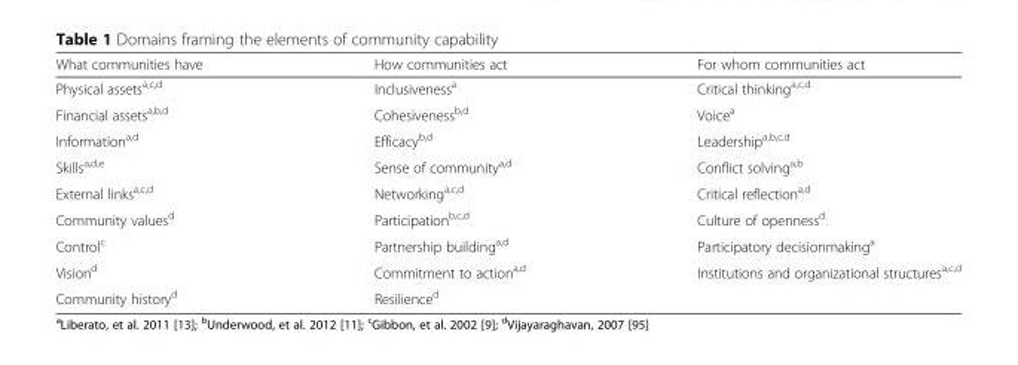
<table><thead><tr><td>What communities have</td><td>How communities act</td><td>For whom communities act</td></tr></thead><tbody><tr><td>Physical assets<sup>a,c,d</sup></td><td>Inclusiveness<sup>a</sup></td><td>Critical thinking<sup>a,c,d</sup></td></tr><tr><td>Financial assets<sup>a,b,d</sup></td><td>Cohesiveness<sup>b,d</sup></td><td>Voice<sup>a</sup></td></tr><tr><td>Information<sup>a,d</sup></td><td>Efficacy<sup>b,d</sup></td><td>Leadership<sup>a,b,c,d</sup></td></tr><tr><td>Skills<sup>a,d,e</sup></td><td>Sense of community<sup>a,d</sup></td><td>Conflict solving<sup>a,b</sup></td></tr><tr><td>External links<sup>a,c,d</sup></td><td>Networking<sup>a,c,d</sup></td><td>Critical reflection<sup>a,d</sup></td></tr><tr><td>Community values<sup>d</sup></td><td>Participation<sup>b,c,d</sup></td><td>Culture of openness<sup>d</sup></td></tr><tr><td>Control<sup>c</sup></td><td>Partnership building<sup>a,d</sup></td><td>Participatory decisionmaking<sup>a</sup></td></tr><tr><td>Vision<sup>d</sup></td><td>Commitment to action<sup>a,d</sup></td><td>Institutions and organizational structures<sup>a,c,d</sup></td></tr><tr><td>Community history<sup>d</sup></td><td>Resilience<sup>d</sup></td><td></td></tr></tbody></table>